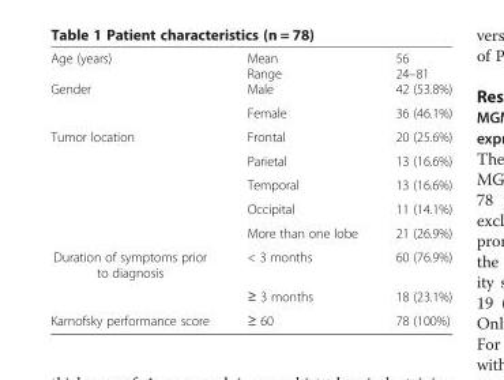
<table><thead><tr><td rowspan="2">Age (years)</td><td rowspan="2">Mean Range</td><td rowspan="2">56 24–81</td></tr><tr></tr></thead><tbody><tr><td rowspan="2">Gender</td><td>Male</td><td>42 (53.8%)</td></tr><tr><td>Female</td><td>36 (46.1%)</td></tr><tr><td rowspan="5">Tumor location</td><td>Frontal</td><td>20 (25.6%)</td></tr><tr><td>Parietal</td><td>13 (16.6%)</td></tr><tr><td>Temporal</td><td>13 (16.6%)</td></tr><tr><td>Occipital</td><td>11 (14.1%)</td></tr><tr><td>More than one lobe</td><td>21 (26.9%)</td></tr><tr><td rowspan="2">Duration of symptoms prior to diagnosis</td><td>&lt; 3 months</td><td>60 (76.9%)</td></tr><tr><td>≥ 3 months</td><td>18 (23.1%)</td></tr><tr><td>Karnofsky performance score</td><td>≥ 60</td><td>78 (100%)</td></tr></tbody></table>